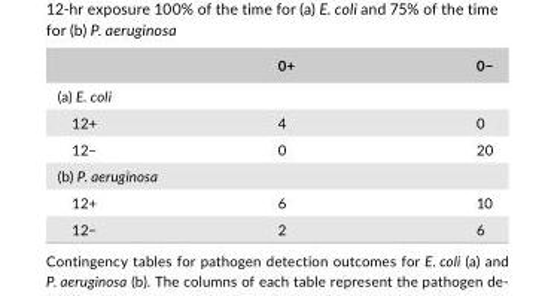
<table><thead><tr><td></td><td>0+</td><td>0−</td></tr></thead><tbody><tr><td colspan="3">(a) E. coli</td></tr><tr><td>12+</td><td>4</td><td>0</td></tr><tr><td>12−</td><td>0</td><td>20</td></tr><tr><td colspan="3">(b) P. aeruginosa</td></tr><tr><td>12+</td><td>6</td><td>10</td></tr><tr><td>12−</td><td>2</td><td>6</td></tr></tbody></table>